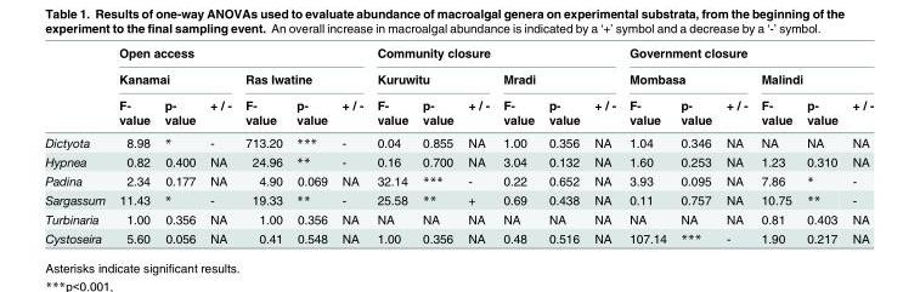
<table><thead><tr><td rowspan="3"></td><td colspan="6">Open access</td><td colspan="6">Community closure</td><td colspan="6">Government closure</td></tr><tr><td colspan="3">Kanamai</td><td colspan="3">Ras Iwatine</td><td colspan="3">Kuruwitu</td><td colspan="3">Mradi</td><td colspan="3">Mombasa</td><td colspan="3">Malindi</td></tr><tr><td>F- value</td><td>p- value</td><td>+ / -</td><td>F- value</td><td>p- value</td><td>+ / -</td><td>F- value</td><td>p- value</td><td>+ / -</td><td>F- value</td><td>p- value</td><td>+ / -</td><td>F- value</td><td>p- value</td><td>+ / -</td><td>F- value</td><td>p- value</td><td>+ / -</td></tr></thead><tbody><tr><td>Dictyota</td><td>8.98</td><td>*</td><td>-</td><td>713.20</td><td>***</td><td>-</td><td>0.04</td><td>0.855</td><td>NA</td><td>1.00</td><td>0.356</td><td>NA</td><td>1.04</td><td>0.346</td><td>NA</td><td>NA</td><td>NA</td><td>NA</td></tr><tr><td>Hypnea</td><td>0.82</td><td>0.400</td><td>NA</td><td>24.96</td><td>**</td><td>-</td><td>0.16</td><td>0.700</td><td>NA</td><td>3.04</td><td>0.132</td><td>NA</td><td>1.60</td><td>0.253</td><td>NA</td><td>1.23</td><td>0.310</td><td>NA</td></tr><tr><td>Padina</td><td>2.34</td><td>0.177</td><td>NA</td><td>4.90</td><td>0.069</td><td>NA</td><td>32.14</td><td>***</td><td>-</td><td>0.22</td><td>0.652</td><td>NA</td><td>3.93</td><td>0.095</td><td>NA</td><td>7.86</td><td>*</td><td>-</td></tr><tr><td>Sargassum</td><td>11.43</td><td>*</td><td>-</td><td>19.33</td><td>**</td><td>-</td><td>25.58</td><td>**</td><td>+</td><td>0.69</td><td>0.438</td><td>NA</td><td>0.11</td><td>0.757</td><td>NA</td><td>10.75</td><td>**</td><td>-</td></tr><tr><td>Turbinaria</td><td>1.00</td><td>0.356</td><td>NA</td><td>1.00</td><td>0.356</td><td>NA</td><td>NA</td><td>NA</td><td>NA</td><td>NA</td><td>NA</td><td>NA</td><td>NA</td><td>NA</td><td>NA</td><td>0.81</td><td>0.403</td><td>NA</td></tr><tr><td>Cystoseira</td><td>5.60</td><td>0.056</td><td>NA</td><td>0.41</td><td>0.548</td><td>NA</td><td>1.00</td><td>0.356</td><td>NA</td><td>0.48</td><td>0.516</td><td>NA</td><td>107.14</td><td>***</td><td>-</td><td>1.90</td><td>0.217</td><td>NA</td></tr></tbody></table>